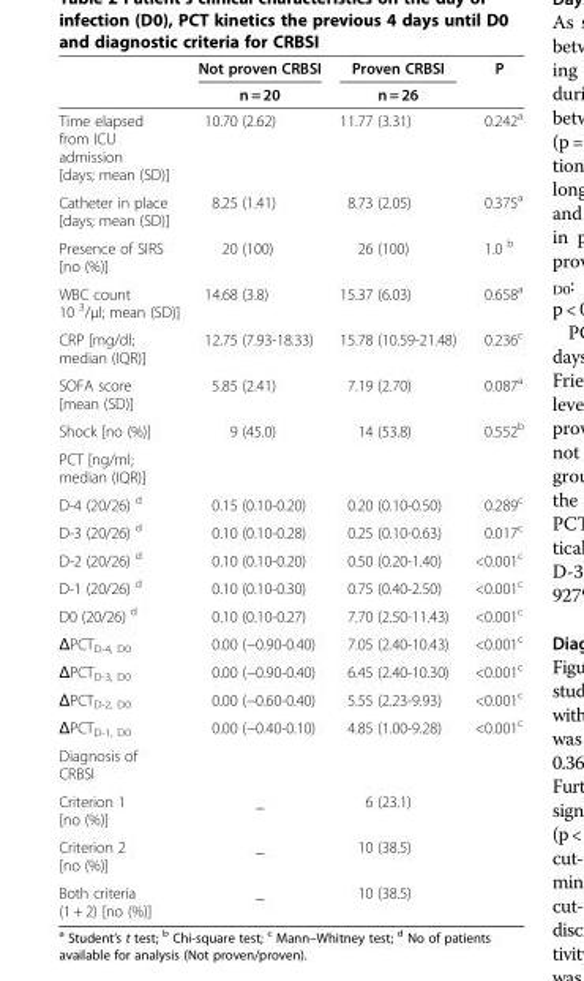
<table><thead><tr><td rowspan="2"></td><td rowspan="2">Not proven CRBSI n = 20</td><td rowspan="2">Proven CRBSI n = 26</td><td rowspan="2">P</td></tr><tr></tr></thead><tbody><tr><td>Time elapsed from ICU admission [days; mean (SD)]</td><td>10.70 (2.62)</td><td>11.77 (3.31)</td><td>0.242<sup>a</sup></td></tr><tr><td>Catheter in place [days; mean (SD)]</td><td>8.25 (1.41)</td><td>8.73 (2.05)</td><td>0.375<sup>a</sup></td></tr><tr><td>Presence of SIRS [no (%)]</td><td>20 (100)</td><td>26 (100)</td><td>1.0 <sup>b</sup></td></tr><tr><td>WBC count 10 <sup>3</sup>/μl; mean (SD)]</td><td>14.68 (3.8)</td><td>15.37 (6.03)</td><td>0.658<sup>a</sup></td></tr><tr><td>CRP [mg/dl; median (IQR)]</td><td>12.75 (7.93-18.33)</td><td>15.78 (10.59-21.48)</td><td>0.236<sup>c</sup></td></tr><tr><td>SOFA score [mean (SD)]</td><td>5.85 (2.41)</td><td>7.19 (2.70)</td><td>0.087<sup>a</sup></td></tr><tr><td>Shock [no (%)]</td><td>9 (45.0)</td><td>14 (53.8)</td><td>0.552<sup>b</sup></td></tr><tr><td colspan="4">PCT [ng/ml; median (IQR)]</td></tr><tr><td>D-4 (20/26) <sup>d</sup></td><td>0.15 (0.10-0.20)</td><td>0.20 (0.10-0.50)</td><td>0.289<sup>c</sup></td></tr><tr><td>D-3 (20/26) <sup>d</sup></td><td>0.10 (0.10-0.28)</td><td>0.25 (0.10-0.63)</td><td>0.017<sup>c</sup></td></tr><tr><td>D-2 (20/26) <sup>d</sup></td><td>0.10 (0.10-0.20)</td><td>0.50 (0.20-1.40)</td><td>&lt;0.001<sup>c</sup></td></tr><tr><td>D-1 (20/26) <sup>d</sup></td><td>0.10 (0.10-0.30)</td><td>0.75 (0.40-2.50)</td><td>&lt;0.001<sup>c</sup></td></tr><tr><td>D0 (20/26) <sup>d</sup></td><td>0.10 (0.10-0.27)</td><td>7.70 (2.50-11.43)</td><td>&lt;0.001<sup>c</sup></td></tr><tr><td>ΔPCT<sub>D-4, D0</sub></td><td>0.00 (−0.90-0.40)</td><td>7.05 (2.40-10.43)</td><td>&lt;0.001<sup>c</sup></td></tr><tr><td>ΔPCT<sub>D-3, D0</sub></td><td>0.00 (−0.90-0.40)</td><td>6.45 (2.40-10.30)</td><td>&lt;0.001<sup>c</sup></td></tr><tr><td>ΔPCT<sub>D-2, D0</sub></td><td>0.00 (−0.60-0.40)</td><td>5.55 (2.23-9.93)</td><td>&lt;0.001<sup>c</sup></td></tr><tr><td>ΔPCT<sub>D-1, D0</sub></td><td>0.00 (−0.40-0.10)</td><td>4.85 (1.00-9.28)</td><td>&lt;0.001<sup>c</sup></td></tr><tr><td colspan="4">Diagnosis of CRBSI</td></tr><tr><td>Criterion 1 [no (%)]</td><td>_</td><td>6 (23.1)</td><td></td></tr><tr><td>Criterion 2 [no (%)]</td><td>_</td><td>10 (38.5)</td><td></td></tr><tr><td>Both criteria (1 + 2) [no (%)]</td><td>_</td><td>10 (38.5)</td><td></td></tr></tbody></table>